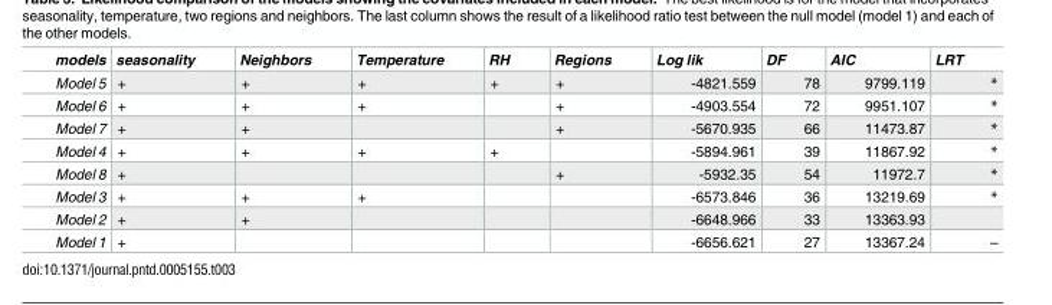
<table><thead><tr><td>models</td><td>seasonality</td><td>Neighbors</td><td>Temperature</td><td>RH</td><td>Regions</td><td>Log lik</td><td>DF</td><td>AIC</td><td>LRT</td></tr></thead><tbody><tr><td>Model 5</td><td>+</td><td>+</td><td>+</td><td>+</td><td>+</td><td>-4821.559</td><td>78</td><td>9799.119</td><td>*</td></tr><tr><td>Model 6</td><td>+</td><td>+</td><td>+</td><td></td><td>+</td><td>-4903.554</td><td>72</td><td>9951.107</td><td>*</td></tr><tr><td>Model 7</td><td>+</td><td>+</td><td></td><td></td><td>+</td><td>-5670.935</td><td>66</td><td>11473.87</td><td>*</td></tr><tr><td>Model 4</td><td>+</td><td>+</td><td>+</td><td>+</td><td></td><td>-5894.961</td><td>39</td><td>11867.92</td><td>*</td></tr><tr><td>Model 8</td><td>+</td><td></td><td></td><td></td><td>+</td><td>-5932.35</td><td>54</td><td>11972.7</td><td>*</td></tr><tr><td>Model 3</td><td>+</td><td>+</td><td>+</td><td></td><td></td><td>-6573.846</td><td>36</td><td>13219.69</td><td>*</td></tr><tr><td>Model 2</td><td>+</td><td>+</td><td></td><td></td><td></td><td>-6648.966</td><td>33</td><td>13363.93</td><td></td></tr><tr><td>Model 1</td><td>+</td><td></td><td></td><td></td><td></td><td>-6656.621</td><td>27</td><td>13367.24</td><td>–</td></tr></tbody></table>